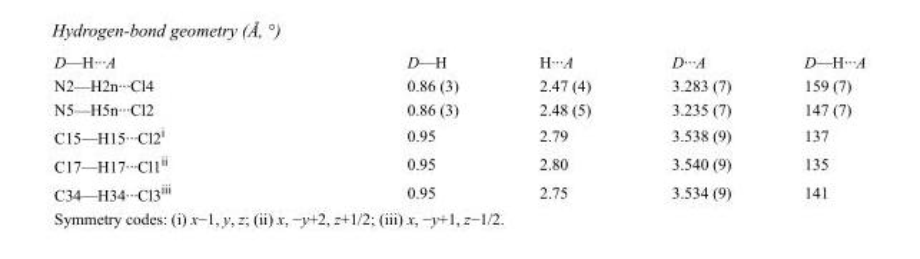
<table><tbody><tr><td>D—H···A</td><td>D—H</td><td>H···A</td><td>D···A</td><td>D—H···A</td></tr><tr><td>N2—H2n···Cl4</td><td>0.86 (3)</td><td>2.47 (4)</td><td>3.283 (7)</td><td>159 (7)</td></tr><tr><td>N5—H5n···Cl2</td><td>0.86 (3)</td><td>2.48 (5)</td><td>3.235 (7)</td><td>147 (7)</td></tr><tr><td>C15—H15···Cl2<sup>i</sup></td><td>0.95</td><td>2.79</td><td>3.538 (9)</td><td>137</td></tr><tr><td>C17—H17···Cl1<sup>ii</sup></td><td>0.95</td><td>2.80</td><td>3.540 (9)</td><td>135</td></tr><tr><td>C34—H34···Cl3<sup>iii</sup></td><td>0.95</td><td>2.75</td><td>3.534 (9)</td><td>141</td></tr></tbody></table>